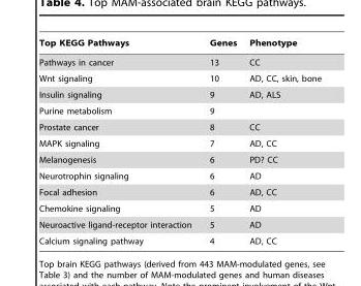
<table><thead><tr><td>Top KEGG Pathways</td><td>Genes</td><td>Phenotype</td></tr></thead><tbody><tr><td>Pathways in cancer</td><td>13</td><td>CC</td></tr><tr><td>Wnt signaling</td><td>10</td><td>AD, CC, skin, bone</td></tr><tr><td>Insulin signaling</td><td>9</td><td>AD, ALS</td></tr><tr><td>Purine metabolism</td><td>9</td><td></td></tr><tr><td>Prostate cancer</td><td>8</td><td>CC</td></tr><tr><td>MAPK signaling</td><td>7</td><td>AD, CC</td></tr><tr><td>Melanogenesis</td><td>6</td><td>PD? CC</td></tr><tr><td>Neurotrophin signaling</td><td>6</td><td>AD</td></tr><tr><td>Focal adhesion</td><td>6</td><td>AD, CC</td></tr><tr><td>Chemokine signaling</td><td>5</td><td>AD</td></tr><tr><td>Neuroactive ligand-receptor interaction</td><td>5</td><td>AD</td></tr><tr><td>Calcium signaling pathway</td><td>4</td><td>AD, CC</td></tr></tbody></table>